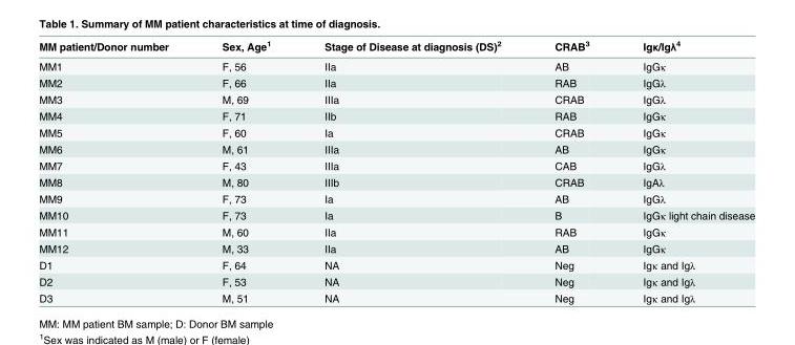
<table><thead><tr><td>MM patient/Donor number</td><td>Sex, Age<sup>1</sup></td><td>Stage of Disease at diagnosis (DS)<sup>2</sup></td><td>CRAB<sup>3</sup></td><td>Igκ/Igλ<sup>4</sup></td></tr></thead><tbody><tr><td>MM1</td><td>F, 56</td><td>IIa</td><td>AB</td><td>IgGκ</td></tr><tr><td>MM2</td><td>F, 66</td><td>IIa</td><td>RAB</td><td>IgGλ</td></tr><tr><td>MM3</td><td>M, 69</td><td>IIIa</td><td>CRAB</td><td>IgGλ</td></tr><tr><td>MM4</td><td>F, 71</td><td>IIb</td><td>RAB</td><td>IgGκ</td></tr><tr><td>MM5</td><td>F, 60</td><td>Ia</td><td>CRAB</td><td>IgGκ</td></tr><tr><td>MM6</td><td>M, 61</td><td>IIIa</td><td>AB</td><td>IgGκ</td></tr><tr><td>MM7</td><td>F, 43</td><td>IIIa</td><td>CAB</td><td>IgGλ</td></tr><tr><td>MM8</td><td>M, 80</td><td>IIIb</td><td>CRAB</td><td>IgAλ</td></tr><tr><td>MM9</td><td>F, 73</td><td>Ia</td><td>AB</td><td>IgGλ</td></tr><tr><td>MM10</td><td>F, 73</td><td>Ia</td><td>B</td><td>IgGκ light chain disease</td></tr><tr><td>MM11</td><td>M, 60</td><td>IIa</td><td>RAB</td><td>IgGκ</td></tr><tr><td>MM12</td><td>M, 33</td><td>IIa</td><td>AB</td><td>IgGκ</td></tr><tr><td>D1</td><td>F, 64</td><td>NA</td><td>Neg</td><td>Igκ and Igλ</td></tr><tr><td>D2</td><td>F, 53</td><td>NA</td><td>Neg</td><td>Igκ and Igλ</td></tr><tr><td>D3</td><td>M, 51</td><td>NA</td><td>Neg</td><td>Igκ and Igλ</td></tr></tbody></table>